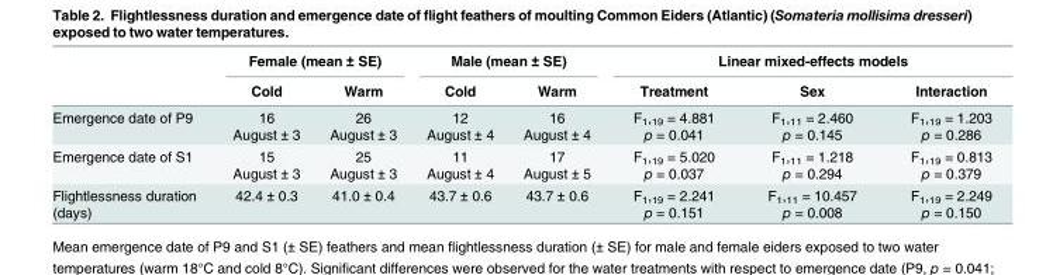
<table><thead><tr><td rowspan="2"></td><td colspan="2">Female (mean ± SE)</td><td colspan="2">Male (mean ± SE)</td><td colspan="3">Linear mixed-effects models</td></tr><tr><td>Cold</td><td>Warm</td><td>Cold</td><td>Warm</td><td>Treatment</td><td>Sex</td><td>Interaction</td></tr></thead><tbody><tr><td>Emergence date of P9</td><td>16 August ± 3</td><td>26 August ± 3</td><td>12 August ± 4</td><td>16 August ± 4</td><td>F<sub>1</sub>,<sub>19</sub> = 4.881 p = 0.041</td><td>F<sub>1</sub>,<sub>11</sub> = 2.460 p = 0.145</td><td>F<sub>1</sub>,<sub>19</sub> = 1.203 p = 0.286</td></tr><tr><td>Emergence date of S1</td><td>15 August ± 3</td><td>25 August ± 3</td><td>11 August ± 4</td><td>17 August ± 5</td><td>F<sub>1</sub>,<sub>19</sub> = 5.020 p = 0.037</td><td>F<sub>1</sub>,<sub>11</sub> = 1.218 p = 0.294</td><td>F<sub>1</sub>,<sub>19</sub> = 0.813 p = 0.379</td></tr><tr><td>Flightlessness duration (days)</td><td>42.4 ± 0.3</td><td>41.0 ± 0.4</td><td>43.7 ± 0.6</td><td>43.7 ± 0.6</td><td>F<sub>1</sub>,<sub>19</sub> = 2.241 p = 0.151</td><td>F<sub>1</sub>,<sub>11</sub> = 10.457 p = 0.008</td><td>F<sub>1</sub>,<sub>19</sub> = 2.249 p = 0.150</td></tr></tbody></table>